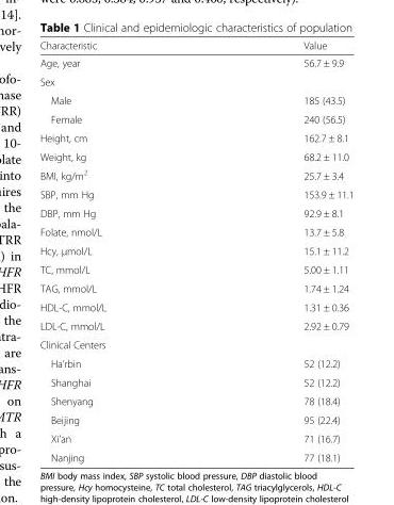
<table><thead><tr><td>Characteristic</td><td>Value</td></tr></thead><tbody><tr><td>Age, year</td><td>56.7 ± 9.9</td></tr><tr><td colspan="2">Sex</td></tr><tr><td>Male</td><td>185 (43.5)</td></tr><tr><td>Female</td><td>240 (56.5)</td></tr><tr><td>Height, cm</td><td>162.7 ± 8.1</td></tr><tr><td>Weight, kg</td><td>68.2 ± 11.0</td></tr><tr><td>BMI, kg/m<sup>2</sup></td><td>25.7 ± 3.4</td></tr><tr><td>SBP, mm Hg</td><td>153.9 ± 11.1</td></tr><tr><td>DBP, mm Hg</td><td>92.9 ± 8.1</td></tr><tr><td>Folate, nmol/L</td><td>13.7 ± 5.8</td></tr><tr><td>Hcy, μmol/L</td><td>15.1 ± 11.2</td></tr><tr><td>TC, mmol/L</td><td>5.00 ± 1.11</td></tr><tr><td>TAG, mmol/L</td><td>1.74 ± 1.24</td></tr><tr><td>HDL-C, mmol/L</td><td>1.31 ± 0.36</td></tr><tr><td>LDL-C, mmol/L</td><td>2.92 ± 0.79</td></tr><tr><td colspan="2">Clinical Centers</td></tr><tr><td>Ha’rbin</td><td>52 (12.2)</td></tr><tr><td>Shanghai</td><td>52 (12.2)</td></tr><tr><td>Shenyang</td><td>78 (18.4)</td></tr><tr><td>Beijing</td><td>95 (22.4)</td></tr><tr><td>Xi&#x27;an</td><td>71 (16.7)</td></tr><tr><td>Nanjing</td><td>77 (18.1)</td></tr></tbody></table>